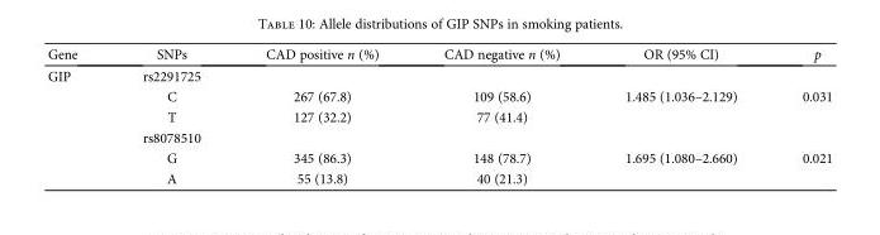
<table><thead><tr><td>Gene</td><td>SNPs</td><td>CAD positive n (%)</td><td>CAD negative n (%)</td><td>OR (95% CI)</td><td>p</td></tr></thead><tbody><tr><td rowspan="6">GIP</td><td>rs2291725</td><td></td><td></td><td></td><td></td></tr><tr><td>C</td><td>267 (67.8)</td><td>109 (58.6)</td><td>1.485 (1.036–2.129)</td><td>0.031</td></tr><tr><td>T</td><td>127 (32.2)</td><td>77 (41.4)</td><td></td><td></td></tr><tr><td>rs8078510</td><td></td><td></td><td></td><td></td></tr><tr><td>G</td><td>345 (86.3)</td><td>148 (78.7)</td><td>1.695 (1.080–2.660)</td><td>0.021</td></tr><tr><td>A</td><td>55 (13.8)</td><td>40 (21.3)</td><td></td><td></td></tr></tbody></table>